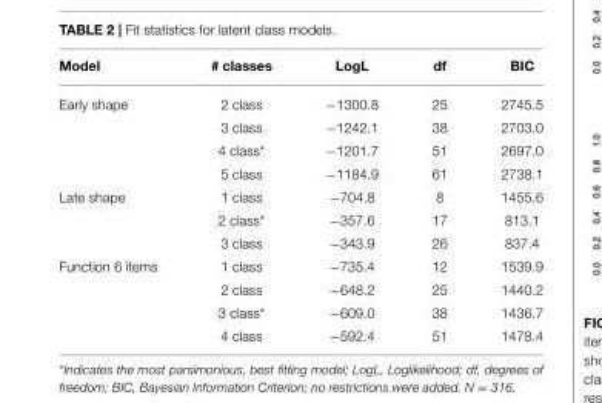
<table><thead><tr><td>Model</td><td># classes</td><td>LogL</td><td>df</td><td>BIC</td></tr></thead><tbody><tr><td rowspan="4">Early shape</td><td>2 class</td><td>−1300.8</td><td>25</td><td>2745.5</td></tr><tr><td>3 class</td><td>−1242.1</td><td>38</td><td>2703.0</td></tr><tr><td>4 class*</td><td>−1201.7</td><td>51</td><td>2697.0</td></tr><tr><td>5 class</td><td>−1184.9</td><td>61</td><td>2738.1</td></tr><tr><td rowspan="3">Late shape</td><td>1 class</td><td>−704.8</td><td>8</td><td>1455.6</td></tr><tr><td>2 class*</td><td>−357.6</td><td>17</td><td>813.1</td></tr><tr><td>3 class</td><td>−343.9</td><td>26</td><td>837.4</td></tr><tr><td rowspan="4">Function 6 items</td><td>1 class</td><td>−735.4</td><td>12</td><td>1539.9</td></tr><tr><td>2 class</td><td>−648.2</td><td>25</td><td>1440.2</td></tr><tr><td>3 class*</td><td>−609.0</td><td>38</td><td>1436.7</td></tr><tr><td>4 class</td><td>−592.4</td><td>51</td><td>1478.4</td></tr></tbody></table>